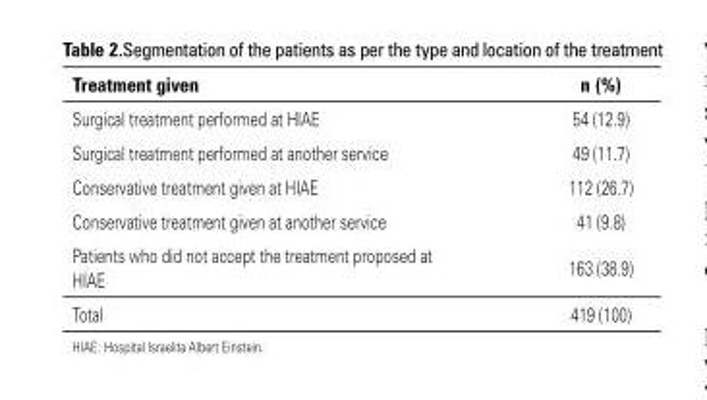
<table><thead><tr><td>treatment given</td><td>n (%)</td></tr></thead><tbody><tr><td>Surgical treatment performed at HIAE</td><td>54 (12.9)</td></tr><tr><td>Surgical treatment performed at another service</td><td>49 (11.7)</td></tr><tr><td>Conservative treatment given at HIAE</td><td>112 (26.7)</td></tr><tr><td>Conservative treatment given at another service</td><td>41 (9.8)</td></tr><tr><td>Patients who did not accept the treatment proposed at HIAE</td><td>163 (38.9)</td></tr><tr><td>Total</td><td>419 (100)</td></tr></tbody></table>